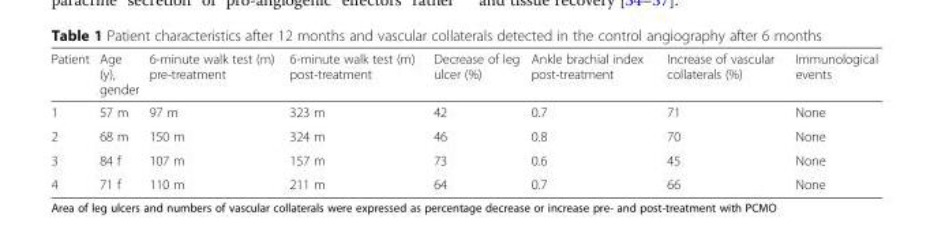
<table><thead><tr><td>Patient</td><td>Age (y), gender</td><td>6-minute walk test (m) pre-treatment</td><td>6-minute walk test (m) post-treatment</td><td>Decrease of leg ulcer (%)</td><td>Ankle brachial index post-treatment</td><td>Increase of vascular collaterals (%)</td><td>Immunological events</td></tr></thead><tbody><tr><td>1</td><td>57 m</td><td>97 m</td><td>323 m</td><td>42</td><td>0.7</td><td>71</td><td>None</td></tr><tr><td>2</td><td>68 m</td><td>150 m</td><td>324 m</td><td>46</td><td>0.8</td><td>70</td><td>None</td></tr><tr><td>3</td><td>84 f</td><td>107 m</td><td>157 m</td><td>73</td><td>0.6</td><td>45</td><td>None</td></tr><tr><td>4</td><td>71 f</td><td>110 m</td><td>211 m</td><td>64</td><td>0.7</td><td>66</td><td>None</td></tr></tbody></table>